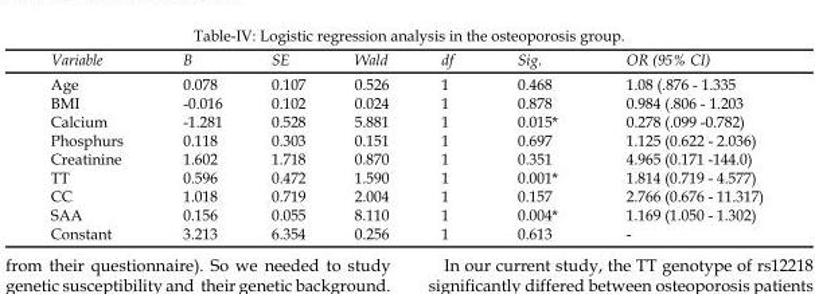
<table><thead><tr><td>Variable</td><td>B</td><td>SE</td><td>Wald</td><td>df</td><td>Sig.</td><td>OR (95% CI)</td></tr></thead><tbody><tr><td>Age</td><td>0.078</td><td>0.107</td><td>0.526</td><td>1</td><td>0.468</td><td>1.08 (.876 - 1.335</td></tr><tr><td>BMI</td><td>-0.016</td><td>0.102</td><td>0.024</td><td>1</td><td>0.878</td><td>0.984 (.806 - 1.203</td></tr><tr><td>Calcium</td><td>-1.281</td><td>0.528</td><td>5.881</td><td>1</td><td>0.015*</td><td>0.278 (.099 -0.782)</td></tr><tr><td>Phosphurs</td><td>0.118</td><td>0.303</td><td>0.151</td><td>1</td><td>0.697</td><td>1.125 (0.622 - 2.036)</td></tr><tr><td>Creatinine</td><td>1.602</td><td>1.718</td><td>0.870</td><td>1</td><td>0.351</td><td>4.965 (0.171 -144.0)</td></tr><tr><td>TT</td><td>0.596</td><td>0.472</td><td>1.590</td><td>1</td><td>0.001*</td><td>1.814 (0.719 - 4.577)</td></tr><tr><td>CC</td><td>1.018</td><td>0.719</td><td>2.004</td><td>1</td><td>0.157</td><td>2.766 (0.676 - 11.317)</td></tr><tr><td>SAA</td><td>0.156</td><td>0.055</td><td>8.110</td><td>1</td><td>0.004*</td><td>1.169 (1.050 - 1.302)</td></tr><tr><td>Constant</td><td>3.213</td><td>6.354</td><td>0.256</td><td>1</td><td>0.613</td><td>-</td></tr></tbody></table>